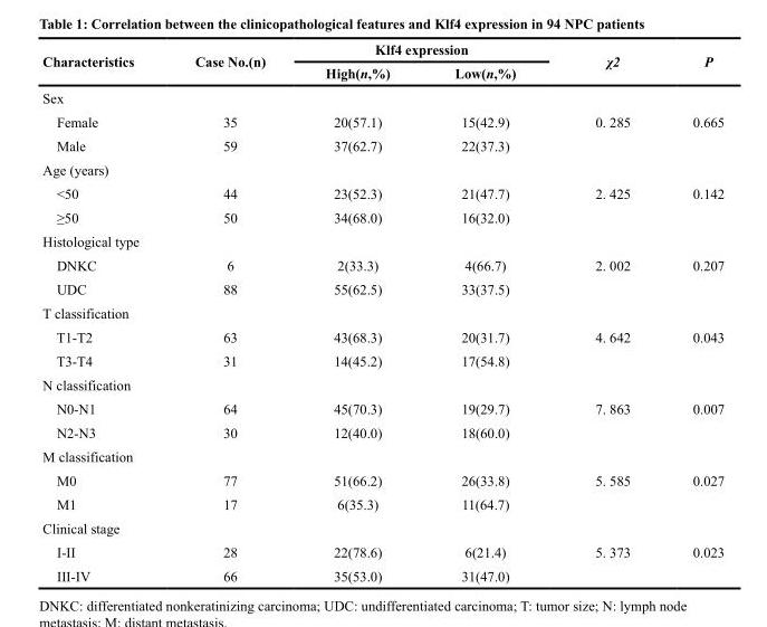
<table><thead><tr><td rowspan="2">Characteristics</td><td rowspan="2">Case No.(n)</td><td colspan="2">Klf4 expression</td><td rowspan="2">χ2</td><td rowspan="2">P</td></tr><tr><td>High(n,%)</td><td>Low(n,%)</td></tr></thead><tbody><tr><td colspan="6">Sex</td></tr><tr><td>Female</td><td>35</td><td>20(57.1)</td><td>15(42.9)</td><td>0. 285</td><td>0.665</td></tr><tr><td>Male</td><td>59</td><td>37(62.7)</td><td>22(37.3)</td><td></td><td></td></tr><tr><td colspan="6">Age (years)</td></tr><tr><td>&lt;50</td><td>44</td><td>23(52.3)</td><td>21(47.7)</td><td>2. 425</td><td>0.142</td></tr><tr><td>≥50</td><td>50</td><td>34(68.0)</td><td>16(32.0)</td><td></td><td></td></tr><tr><td colspan="6">Histological type</td></tr><tr><td>DNKC</td><td>6</td><td>2(33.3)</td><td>4(66.7)</td><td>2. 002</td><td>0.207</td></tr><tr><td>UDC</td><td>88</td><td>55(62.5)</td><td>33(37.5)</td><td></td><td></td></tr><tr><td colspan="6">T classification</td></tr><tr><td>T1-T2</td><td>63</td><td>43(68.3)</td><td>20(31.7)</td><td>4. 642</td><td>0.043</td></tr><tr><td>T3-T4</td><td>31</td><td>14(45.2)</td><td>17(54.8)</td><td></td><td></td></tr><tr><td colspan="6">N classification</td></tr><tr><td>N0-N1</td><td>64</td><td>45(70.3)</td><td>19(29.7)</td><td>7. 863</td><td>0.007</td></tr><tr><td>N2-N3</td><td>30</td><td>12(40.0)</td><td>18(60.0)</td><td></td><td></td></tr><tr><td colspan="6">M classification</td></tr><tr><td>M0</td><td>77</td><td>51(66.2)</td><td>26(33.8)</td><td>5. 585</td><td>0.027</td></tr><tr><td>M1</td><td>17</td><td>6(35.3)</td><td>11(64.7)</td><td></td><td></td></tr><tr><td colspan="6">Clinical stage</td></tr><tr><td>I-II</td><td>28</td><td>22(78.6)</td><td>6(21.4)</td><td>5. 373</td><td>0.023</td></tr><tr><td>III-IV</td><td>66</td><td>35(53.0)</td><td>31(47.0)</td><td></td><td></td></tr></tbody></table>